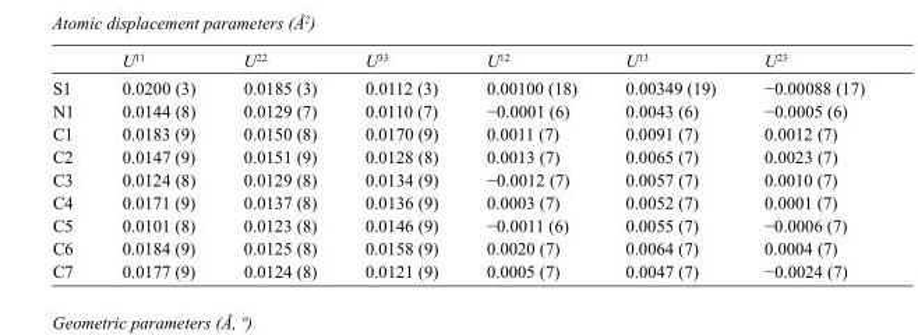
<table><thead><tr><td></td><td>U<sup>11</sup></td><td>U<sup>22</sup></td><td>U<sup>33</sup></td><td>U<sup>12</sup></td><td>U<sup>13</sup></td><td>U<sup>23</sup></td></tr></thead><tbody><tr><td>S1</td><td>0.0200 (3)</td><td>0.0185 (3)</td><td>0.0112 (3)</td><td>0.00100 (18)</td><td>0.00349 (19)</td><td>−0.00088 (17)</td></tr><tr><td>N1</td><td>0.0144 (8)</td><td>0.0129 (7)</td><td>0.0110 (7)</td><td>−0.0001 (6)</td><td>0.0043 (6)</td><td>−0.0005 (6)</td></tr><tr><td>C1</td><td>0.0183 (9)</td><td>0.0150 (8)</td><td>0.0170 (9)</td><td>0.0011 (7)</td><td>0.0091 (7)</td><td>0.0012 (7)</td></tr><tr><td>C2</td><td>0.0147 (9)</td><td>0.0151 (9)</td><td>0.0128 (8)</td><td>0.0013 (7)</td><td>0.0065 (7)</td><td>0.0023 (7)</td></tr><tr><td>C3</td><td>0.0124 (8)</td><td>0.0129 (8)</td><td>0.0134 (9)</td><td>−0.0012 (7)</td><td>0.0057 (7)</td><td>0.0010 (7)</td></tr><tr><td>C4</td><td>0.0171 (9)</td><td>0.0137 (8)</td><td>0.0136 (9)</td><td>0.0003 (7)</td><td>0.0052 (7)</td><td>0.0001 (7)</td></tr><tr><td>C5</td><td>0.0101 (8)</td><td>0.0123 (8)</td><td>0.0146 (9)</td><td>−0.0011 (6)</td><td>0.0055 (7)</td><td>−0.0006 (7)</td></tr><tr><td>C6</td><td>0.0184 (9)</td><td>0.0125 (8)</td><td>0.0158 (9)</td><td>0.0020 (7)</td><td>0.0064 (7)</td><td>0.0004 (7)</td></tr><tr><td>C7</td><td>0.0177 (9)</td><td>0.0124 (8)</td><td>0.0121 (9)</td><td>0.0005 (7)</td><td>0.0047 (7)</td><td>−0.0024 (7)</td></tr></tbody></table>